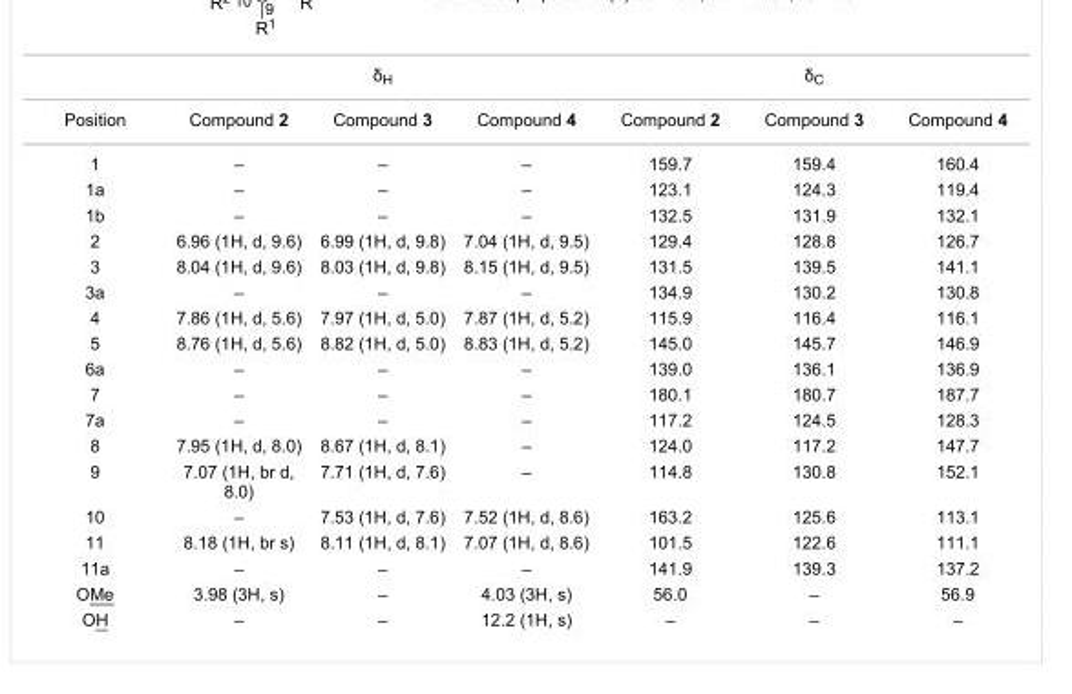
<table><thead><tr><td rowspan="2">Position</td><td colspan="3">δ<sub>H</sub></td><td colspan="3">δ<sub>C</sub></td></tr><tr><td>Compound 2</td><td>Compound 3</td><td>Compound 4</td><td>Compound 2</td><td>Compound 3</td><td>Compound 4</td></tr></thead><tbody><tr><td>1</td><td>–</td><td>–</td><td>–</td><td>159.7</td><td>159.4</td><td>160.4</td></tr><tr><td>1a</td><td>–</td><td>–</td><td>–</td><td>123.1</td><td>124.3</td><td>119.4</td></tr><tr><td>1b</td><td>–</td><td>–</td><td>–</td><td>132.5</td><td>131.9</td><td>132.1</td></tr><tr><td>2</td><td>6.96 (1H, d, 9.6)</td><td>6.99 (1H, d, 9.8)</td><td>7.04 (1H, d, 9.5)</td><td>129.4</td><td>128.8</td><td>126.7</td></tr><tr><td>3</td><td>8.04 (1H, d, 9.6)</td><td>8.03 (1H, d, 9.8)</td><td>8.15 (1H, d, 9.5)</td><td>131.5</td><td>139.5</td><td>141.1</td></tr><tr><td>3a</td><td>–</td><td>–</td><td>–</td><td>134.9</td><td>130.2</td><td>130.8</td></tr><tr><td>4</td><td>7.86 (1H, d, 5.6)</td><td>7.97 (1H, d, 5.0)</td><td>7.87 (1H, d, 5.2)</td><td>115.9</td><td>116.4</td><td>116.1</td></tr><tr><td>5</td><td>8.76 (1H, d, 5.6)</td><td>8.82 (1H, d, 5.0)</td><td>8.83 (1H, d, 5.2)</td><td>145.0</td><td>145.7</td><td>146.9</td></tr><tr><td>6a</td><td>–</td><td>–</td><td>–</td><td>139.0</td><td>136.1</td><td>136.9</td></tr><tr><td>7</td><td>–</td><td>–</td><td>–</td><td>180.1</td><td>180.7</td><td>187.7</td></tr><tr><td>7a</td><td>–</td><td>–</td><td>–</td><td>117.2</td><td>124.5</td><td>128.3</td></tr><tr><td>8</td><td>7.95 (1H, d, 8.0)</td><td>8.67 (1H, d, 8.1)</td><td>–</td><td>124.0</td><td>117.2</td><td>147.7</td></tr><tr><td>9</td><td>7.07 (1H, br d, 8.0)</td><td>7.71 (1H, d, 7.6)</td><td>–</td><td>114.8</td><td>130.8</td><td>152.1</td></tr><tr><td>10</td><td>–</td><td>7.53 (1H, d, 7.6)</td><td>7.52 (1H, d, 8.6)</td><td>163.2</td><td>125.6</td><td>113.1</td></tr><tr><td>11</td><td>8.18 (1H, br s)</td><td>8.11 (1H, d, 8.1)</td><td>7.07 (1H, d, 8.6)</td><td>101.5</td><td>122.6</td><td>111.1</td></tr><tr><td>11a</td><td>–</td><td>–</td><td>–</td><td>141.9</td><td>139.3</td><td>137.2</td></tr><tr><td>OMe</td><td>3.98 (3H, s)</td><td>–</td><td>4.03 (3H, s)</td><td>56.0</td><td>–</td><td>56.9</td></tr><tr><td>OH</td><td>–</td><td>–</td><td>12.2 (1H, s)</td><td>–</td><td>–</td><td>–</td></tr></tbody></table>